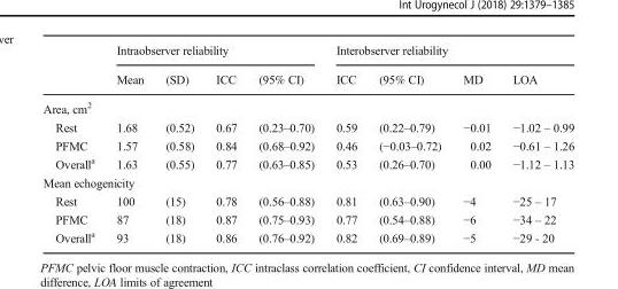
<table><thead><tr><td rowspan="2"></td><td colspan="4">Intraobserver reliability</td><td colspan="4">Interobserver reliability</td></tr><tr><td>Mean</td><td>(SD)</td><td>ICC</td><td>(95% CI)</td><td>ICC</td><td>(95% CI)</td><td>MD</td><td>LOA</td></tr></thead><tbody><tr><td colspan="9">Area, cm<sup>2</sup></td></tr><tr><td>Rest</td><td>1.68</td><td>(0.52)</td><td>0.67</td><td>(0.23–0.70)</td><td>0.59</td><td>(0.22–0.79)</td><td>−0.01</td><td>−1.02 – 0.99</td></tr><tr><td>PFMC</td><td>1.57</td><td>(0.58)</td><td>0.84</td><td>(0.68–0.92)</td><td>0.46</td><td>(−0.03–0.72)</td><td>0.02</td><td>−0.61 – 1.26</td></tr><tr><td>Overall<sup>a</sup></td><td>1.63</td><td>(0.55)</td><td>0.77</td><td>(0.63–0.85)</td><td>0.53</td><td>(0.26–0.70)</td><td>0.00</td><td>−1.12 – 1.13</td></tr><tr><td colspan="9">Mean echogenicity</td></tr><tr><td>Rest</td><td>100</td><td>(15)</td><td>0.78</td><td>(0.56–0.88)</td><td>0.81</td><td>(0.63–0.90)</td><td>−4</td><td>−25 – 17</td></tr><tr><td>PFMC</td><td>87</td><td>(18)</td><td>0.87</td><td>(0.75–0.93)</td><td>0.77</td><td>(0.54–0.88)</td><td>−6</td><td>−34 – 22</td></tr><tr><td>Overall<sup>a</sup></td><td>93</td><td>(18)</td><td>0.86</td><td>(0.76–0.92)</td><td>0.82</td><td>(0.69–0.89)</td><td>−5</td><td>−29 - 20</td></tr></tbody></table>